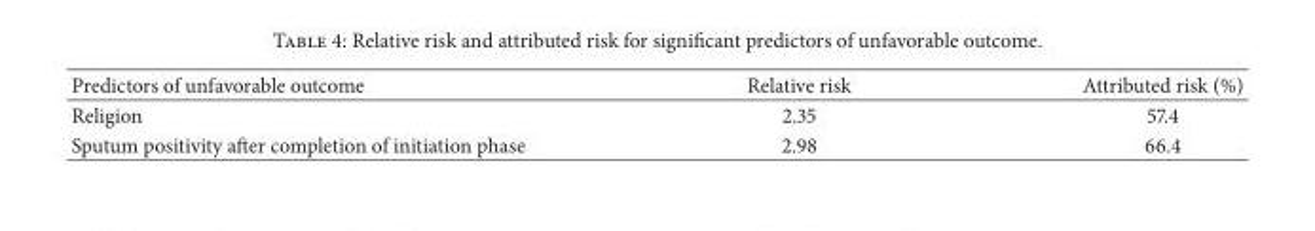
<table><thead><tr><td>Predictors of unfavorable outcome</td><td>Relative risk</td><td>Attributed risk (%)</td></tr></thead><tbody><tr><td>Religion</td><td>2.35</td><td>57.4</td></tr><tr><td>Sputum positivity after completion of initiation phase</td><td>2.98</td><td>66.4</td></tr></tbody></table>